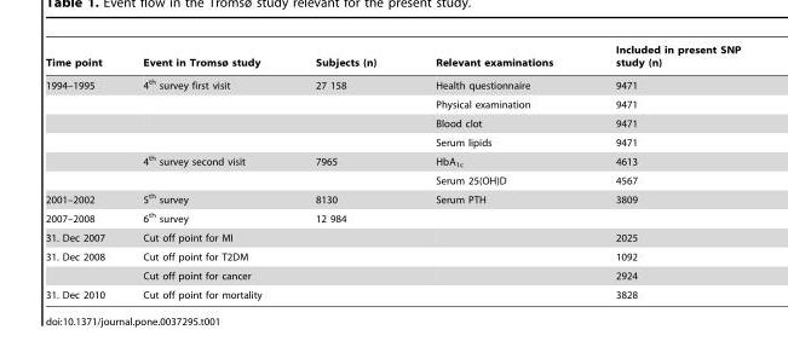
<table><thead><tr><td>Time point</td><td>Event in Tromsø study</td><td>Subjects (n)</td><td>Relevant examinations</td><td>Included in present SNP study (n)</td></tr></thead><tbody><tr><td rowspan="6">1994–1995</td><td>4<sup>th</sup> survey first visit</td><td>27 158</td><td>Health questionnaire</td><td>9471</td></tr><tr><td></td><td></td><td>Physical examination</td><td>9471</td></tr><tr><td></td><td></td><td>Blood clot</td><td>9471</td></tr><tr><td></td><td></td><td>Serum lipids</td><td>9471</td></tr><tr><td>4<sup>th</sup> survey second visit</td><td>7965</td><td>HbA<sub>1c</sub></td><td>4613</td></tr><tr><td></td><td></td><td>Serum 25(OH)D</td><td>4567</td></tr><tr><td>2001–2002</td><td>5<sup>th</sup> survey</td><td>8130</td><td>Serum PTH</td><td>3809</td></tr><tr><td>2007–2008</td><td>6<sup>th</sup> survey</td><td>12 984</td><td></td><td></td></tr><tr><td>31. Dec 2007</td><td>Cut off point for MI</td><td></td><td></td><td>2025</td></tr><tr><td rowspan="2">31. Dec 2008</td><td>Cut off point for T2DM</td><td></td><td></td><td>1092</td></tr><tr><td>Cut off point for cancer</td><td></td><td></td><td>2924</td></tr><tr><td>31. Dec 2010</td><td>Cut off point for mortality</td><td></td><td></td><td>3828</td></tr></tbody></table>